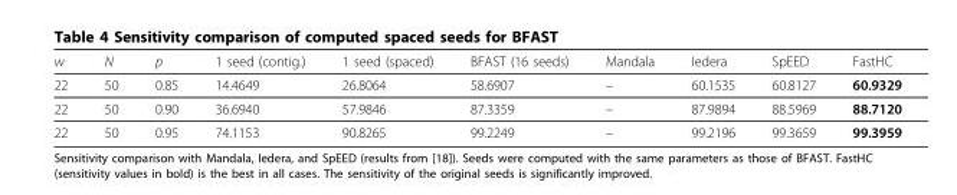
<table><thead><tr><td>w</td><td>N</td><td>p</td><td>1 seed (contig.)</td><td>1 seed (spaced)</td><td>BFAST (16 seeds)</td><td>Mandala</td><td>Iedera</td><td>SpEED</td><td>FastHC</td></tr></thead><tbody><tr><td>22</td><td>50</td><td>0.85</td><td>14.4649</td><td>26.8064</td><td>58.6907</td><td>–</td><td>60.1535</td><td>60.8127</td><td>60.9329</td></tr><tr><td>22</td><td>50</td><td>0.90</td><td>36.6940</td><td>57.9846</td><td>87.3359</td><td>–</td><td>87.9894</td><td>88.5969</td><td>88.7120</td></tr><tr><td>22</td><td>50</td><td>0.95</td><td>74.1153</td><td>90.8265</td><td>99.2249</td><td>–</td><td>99.2196</td><td>99.3659</td><td>99.3959</td></tr></tbody></table>